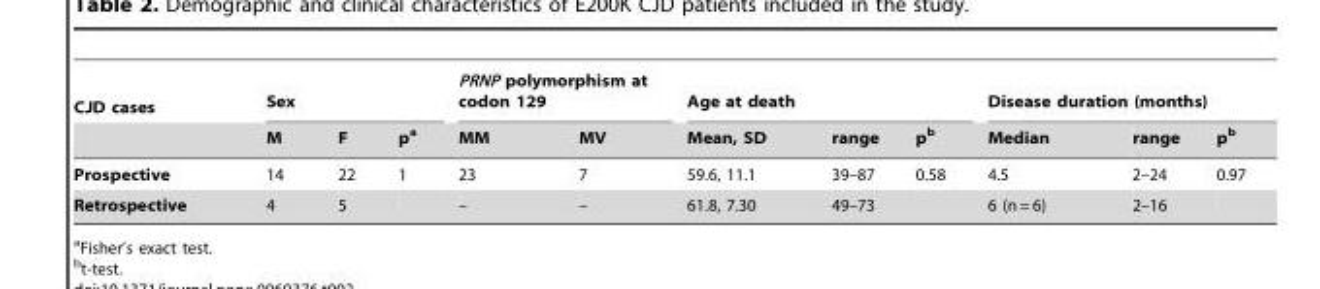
<table><thead><tr><td rowspan="2">CJD cases</td><td colspan="3">Sex</td><td colspan="2">PRNP polymorphism at codon 129</td><td colspan="3">Age at death</td><td colspan="3">Disease duration (months)</td></tr><tr><td>M</td><td>F</td><td>p<sup>a</sup></td><td>MM</td><td>MV</td><td>Mean, SD</td><td>range</td><td>p<sup>b</sup></td><td>Median</td><td>range</td><td>p<sup>b</sup></td></tr></thead><tbody><tr><td>Prospective</td><td>14</td><td>22</td><td>1</td><td>23</td><td>7</td><td>59.6, 11.1</td><td>39–87</td><td>0.58</td><td>4.5</td><td>2–24</td><td>0.97</td></tr><tr><td>Retrospective</td><td>4</td><td>5</td><td></td><td>–</td><td>–</td><td>61.8, 7.30</td><td>49–73</td><td></td><td>6 (n = 6)</td><td>2–16</td><td></td></tr></tbody></table>